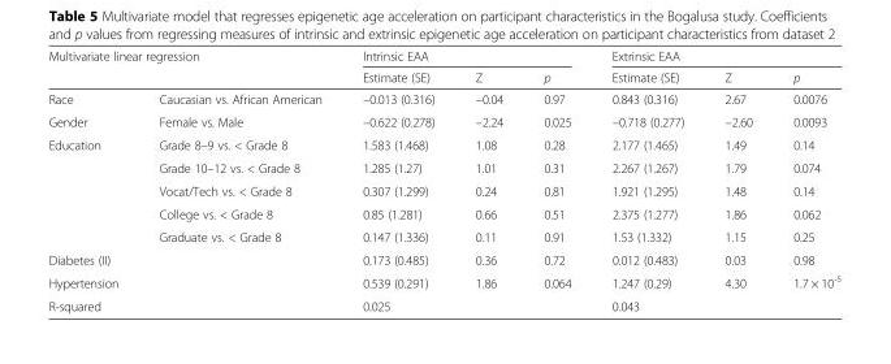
<table><thead><tr><td colspan="2">Multivariate linear regression</td><td colspan="3">Intrinsic EAA</td><td colspan="3">Extrinsic EAA</td></tr><tr><td></td><td></td><td>Estimate (SE)</td><td>Z</td><td>p</td><td>Estimate (SE)</td><td>Z</td><td>p</td></tr></thead><tbody><tr><td>Race</td><td>Caucasian vs. African American</td><td>–0.013 (0.316)</td><td>–0.04</td><td>0.97</td><td>0.843 (0.316)</td><td>2.67</td><td>0.0076</td></tr><tr><td>Gender</td><td>Female vs. Male</td><td>–0.622 (0.278)</td><td>–2.24</td><td>0.025</td><td>–0.718 (0.277)</td><td>–2.60</td><td>0.0093</td></tr><tr><td rowspan="5">Education</td><td>Grade 8–9 vs. &lt; Grade 8</td><td>1.583 (1.468)</td><td>1.08</td><td>0.28</td><td>2.177 (1.465)</td><td>1.49</td><td>0.14</td></tr><tr><td>Grade 10–12 vs. &lt; Grade 8</td><td>1.285 (1.27)</td><td>1.01</td><td>0.31</td><td>2.267 (1.267)</td><td>1.79</td><td>0.074</td></tr><tr><td>Vocat/Tech vs. &lt; Grade 8</td><td>0.307 (1.299)</td><td>0.24</td><td>0.81</td><td>1.921 (1.295)</td><td>1.48</td><td>0.14</td></tr><tr><td>College vs. &lt; Grade 8</td><td>0.85 (1.281)</td><td>0.66</td><td>0.51</td><td>2.375 (1.277)</td><td>1.86</td><td>0.062</td></tr><tr><td>Graduate vs. &lt; Grade 8</td><td>0.147 (1.336)</td><td>0.11</td><td>0.91</td><td>1.53 (1.332)</td><td>1.15</td><td>0.25</td></tr><tr><td>Diabetes (II)</td><td></td><td>0.173 (0.485)</td><td>0.36</td><td>0.72</td><td>0.012 (0.483)</td><td>0.03</td><td>0.98</td></tr><tr><td>Hypertension</td><td></td><td>0.539 (0.291)</td><td>1.86</td><td>0.064</td><td>1.247 (0.29)</td><td>4.30</td><td>1.7 × 10<sup>-5</sup></td></tr><tr><td>R-squared</td><td></td><td>0.025</td><td></td><td></td><td>0.043</td><td></td><td></td></tr></tbody></table>